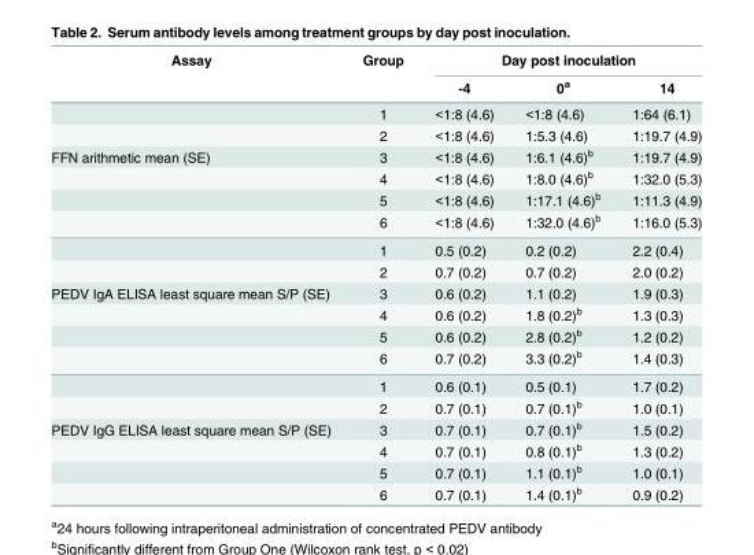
<table><thead><tr><td rowspan="2">Assay</td><td rowspan="2">Group</td><td colspan="3">Day post inoculation</td></tr><tr><td>-4</td><td>0<sup>a</sup></td><td>14</td></tr></thead><tbody><tr><td></td><td>1</td><td>&lt;1:8 (4.6)</td><td>&lt;1:8 (4.6)</td><td>1:64 (6.1)</td></tr><tr><td></td><td>2</td><td>&lt;1:8 (4.6)</td><td>1:5.3 (4.6)</td><td>1:19.7 (4.9)</td></tr><tr><td rowspan="6">FFN arithmetic mean (SE)</td><td>3</td><td>&lt;1:8 (4.6)</td><td>1:6.1 (4.6)<sup>b</sup></td><td>1:19.7 (4.9)</td></tr><tr><td>4</td><td>&lt;1:8 (4.6)</td><td>1:8.0 (4.6)<sup>b</sup></td><td>1:32.0 (5.3)</td></tr><tr><td>5</td><td>&lt;1:8 (4.6)</td><td>1:17.1 (4.6)<sup>b</sup></td><td>1:11.3 (4.9)</td></tr><tr><td>6</td><td>&lt;1:8 (4.6)</td><td>1:32.0 (4.6)<sup>b</sup></td><td>1:16.0 (5.3)</td></tr><tr><td>1</td><td>0.5 (0.2)</td><td>0.2 (0.2)</td><td>2.2 (0.4)</td></tr><tr><td>2</td><td>0.7 (0.2)</td><td>0.7 (0.2)</td><td>2.0 (0.2)</td></tr><tr><td rowspan="6">PEDV IgA ELISA least square mean S/P (SE)</td><td>3</td><td>0.6 (0.2)</td><td>1.1 (0.2)</td><td>1.9 (0.3)</td></tr><tr><td>4</td><td>0.6 (0.2)</td><td>1.8 (0.2)<sup>b</sup></td><td>1.3 (0.3)</td></tr><tr><td>5</td><td>0.6 (0.2)</td><td>2.8 (0.2)<sup>b</sup></td><td>1.2 (0.2)</td></tr><tr><td>6</td><td>0.7 (0.2)</td><td>3.3 (0.2)<sup>b</sup></td><td>1.4 (0.3)</td></tr><tr><td>1</td><td>0.6 (0.1)</td><td>0.5 (0.1)</td><td>1.7 (0.2)</td></tr><tr><td>2</td><td>0.7 (0.1)</td><td>0.7 (0.1)<sup>b</sup></td><td>1.0 (0.1)</td></tr><tr><td rowspan="4">PEDV IgG ELISA least square mean S/P (SE)</td><td>3</td><td>0.7 (0.1)</td><td>0.7 (0.1)<sup>b</sup></td><td>1.5 (0.2)</td></tr><tr><td>4</td><td>0.7 (0.1)</td><td>0.8 (0.1)<sup>b</sup></td><td>1.3 (0.2)</td></tr><tr><td>5</td><td>0.7 (0.1)</td><td>1.1 (0.1)<sup>b</sup></td><td>1.0 (0.1)</td></tr><tr><td>6</td><td>0.7 (0.1)</td><td>1.4 (0.1)<sup>b</sup></td><td>0.9 (0.2)</td></tr></tbody></table>